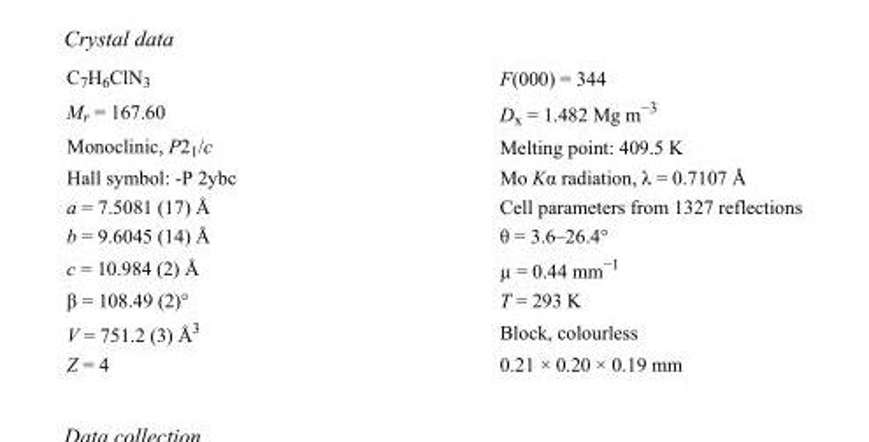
<table><tbody><tr><td>C<sub>7</sub>H<sub>6</sub>ClN<sub>3</sub></td><td>F(000) = 344</td></tr><tr><td>M<sub>r</sub> = 167.60</td><td>D<sub>x</sub> = 1.482 Mg m<sup>−3</sup></td></tr><tr><td>Monoclinic, P2<sub>1</sub>/c</td><td>Melting point: 409.5 K</td></tr><tr><td>Hall symbol: -P 2ybc</td><td>Mo Kα radiation, λ = 0.7107 Å</td></tr><tr><td>a = 7.5081 (17) Å</td><td>Cell parameters from 1327 reflections</td></tr><tr><td>b = 9.6045 (14) Å</td><td>θ = 3.6–26.4°</td></tr><tr><td>c = 10.984 (2) Å</td><td>µ = 0.44 mm<sup>−1</sup></td></tr><tr><td>β = 108.49 (2)°</td><td>T = 293 K</td></tr><tr><td>V = 751.2 (3) Å<sup>3</sup></td><td>Block, colourless</td></tr><tr><td>Z = 4</td><td>0.21 × 0.20 × 0.19 mm</td></tr></tbody></table>